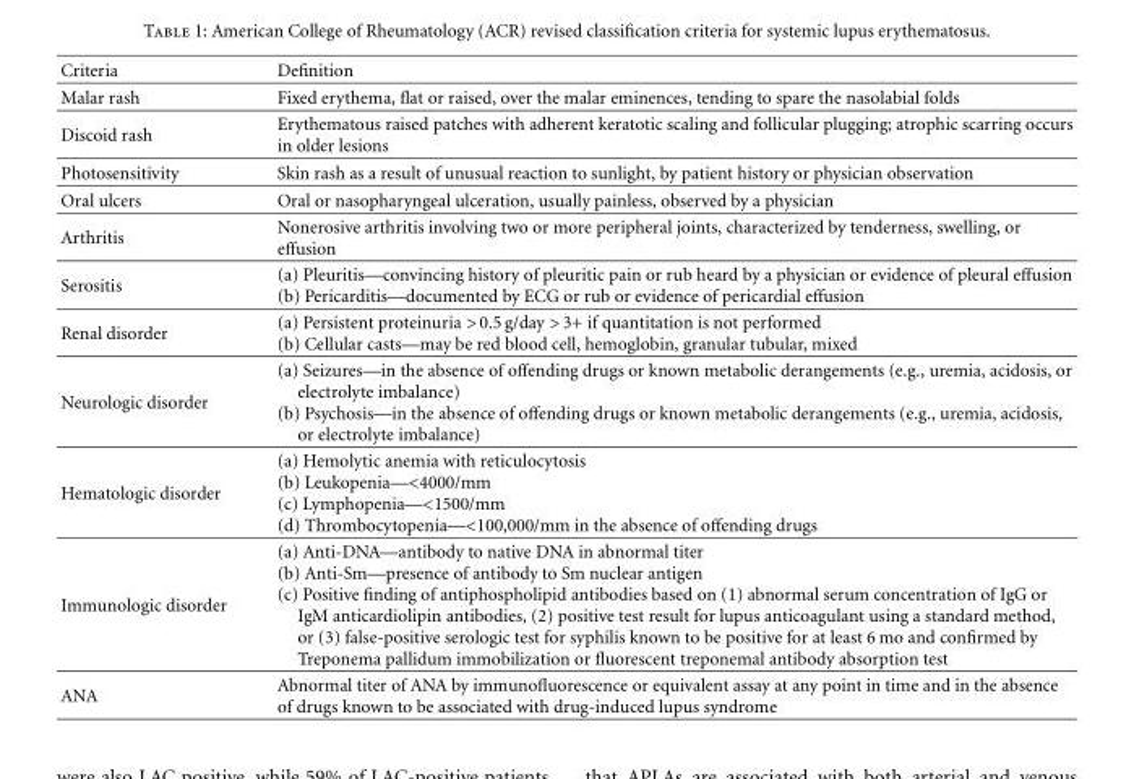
<table><thead><tr><td>Criteria</td><td>Definition</td></tr></thead><tbody><tr><td>Malar rash</td><td>Fixed erythema, flat or raised, over the malar eminences, tending to spare the nasolabial folds</td></tr><tr><td>Discoid rash</td><td>Erythematous raised patches with adherent keratotic scaling and follicular plugging; atrophic scarring occurs in older lesions</td></tr><tr><td>Photosensitivity</td><td>Skin rash as a result of unusual reaction to sunlight, by patient history or physician observation</td></tr><tr><td>Oral ulcers</td><td>Oral or nasopharyngeal ulceration, usually painless, observed by a physician</td></tr><tr><td>Arthritis</td><td>Nonerosive arthritis involving two or more peripheral joints, characterized by tenderness, swelling, or effusion</td></tr><tr><td>Serositis</td><td>(a) Pleuritis—convincing history of pleuritic pain or rub heard by a physician or evidence of pleural effusion (b) Pericarditis—documented by ECG or rub or evidence of pericardial effusion</td></tr><tr><td>Renal disorder</td><td>(a) Persistent proteinuria &gt; 0.5 g/day &gt; 3+ if quantitation is not performed (b) Cellular casts—may be red blood cell, hemoglobin, granular tubular, mixed</td></tr><tr><td>Neurologic disorder</td><td>(a) Seizures—in the absence of offending drugs or known metabolic derangements (e.g., uremia, acidosis, or electrolyte imbalance) (b) Psychosis—in the absence of offending drugs or known metabolic derangements (e.g., uremia, acidosis, or electrolyte imbalance)</td></tr><tr><td>Hematologic disorder</td><td>(a) Hemolytic anemia with reticulocytosis (b) Leukopenia—&lt;4000/mm (c) Lymphopenia—&lt;1500/mm (d) Thrombocytopenia—&lt;100,000/mm in the absence of offending drugs</td></tr><tr><td>Immunologic disorder</td><td>(a) Anti-DNA—antibody to native DNA in abnormal titer (b) Anti-Sm—presence of antibody to Sm nuclear antigen (c) Positive finding of antiphospholipid antibodies based on (1) abnormal serum concentration of IgG or IgM anticardiolipin antibodies, (2) positive test result for lupus anticoagulant using a standard method, or (3) false-positive serologic test for syphilis known to be positive for at least 6 mo and confirmed by Treponema pallidum immobilization or fluorescent treponemal antibody absorption test</td></tr><tr><td>ANA</td><td>Abnormal titer of ANA by immunofluorescence or equivalent assay at any point in time and in the absence of drugs known to be associated with drug-induced lupus syndrome</td></tr></tbody></table>